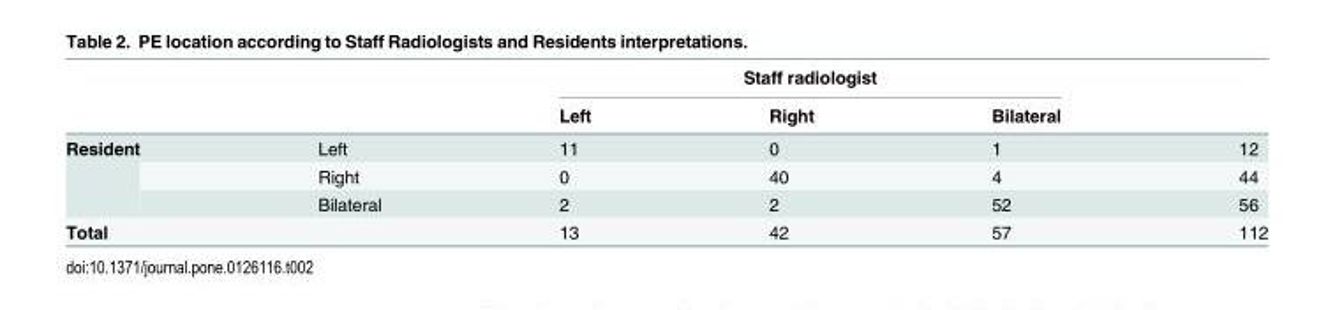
<table><thead><tr><td rowspan="2"></td><td rowspan="2"></td><td colspan="3">Staff radiologist</td><td rowspan="2"></td></tr><tr><td>Left</td><td>Right</td><td>Bilateral</td></tr></thead><tbody><tr><td rowspan="3">Resident</td><td>Left</td><td>11</td><td>0</td><td>1</td><td>12</td></tr><tr><td>Right</td><td>0</td><td>40</td><td>4</td><td>44</td></tr><tr><td>Bilateral</td><td>2</td><td>2</td><td>52</td><td>56</td></tr><tr><td>Total</td><td></td><td>13</td><td>42</td><td>57</td><td>112</td></tr></tbody></table>